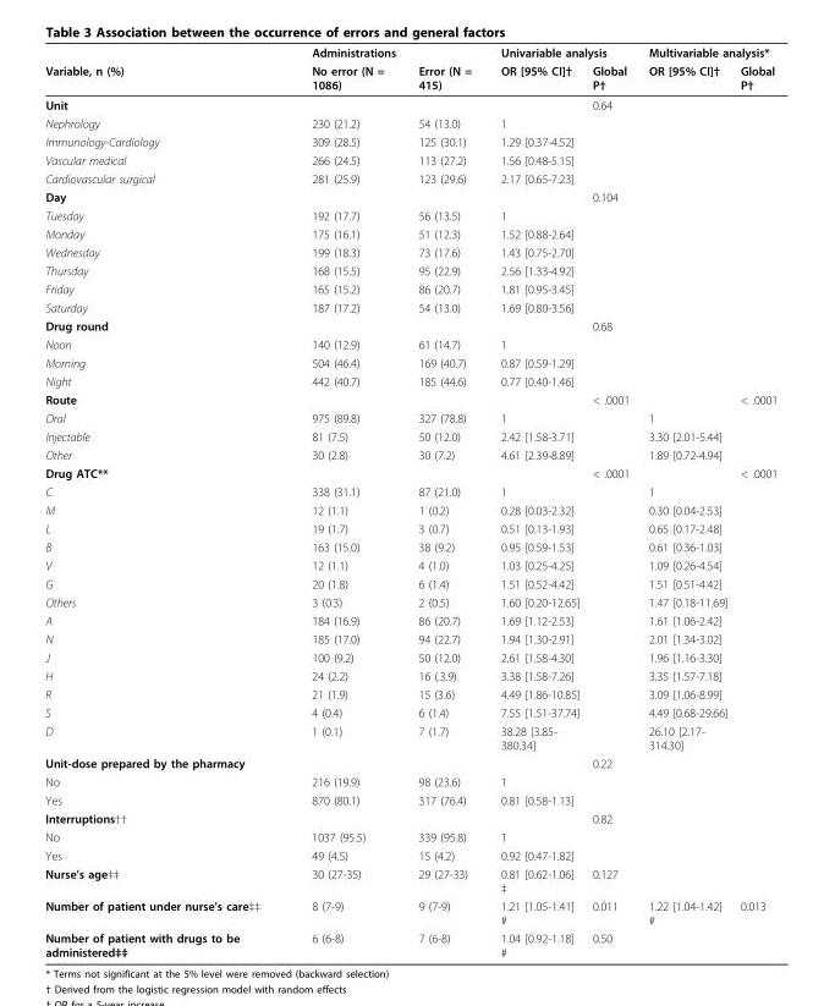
<table><thead><tr><td rowspan="2">Variable, n (%)</td><td colspan="2">Administrations</td><td colspan="2">Univariable analysis</td><td colspan="2">Multivariable analysis*</td></tr><tr><td>No error (N = 1086)</td><td>Error (N = 415)</td><td>OR [95% CI]†</td><td>Global P†</td><td>OR [95% CI]†</td><td>Global P†</td></tr></thead><tbody><tr><td>Unit</td><td></td><td></td><td></td><td>0.64</td><td></td><td></td></tr><tr><td>Nephrology</td><td>230 (21.2)</td><td>54 (13.0)</td><td>1</td><td></td><td></td><td></td></tr><tr><td>Immunology-Cardiology</td><td>309 (28.5)</td><td>125 (30.1)</td><td>1.29 [0.37-4.52]</td><td></td><td></td><td></td></tr><tr><td>Vascular medical</td><td>266 (24.5)</td><td>113 (27.2)</td><td>1.56 [0.48-5.15]</td><td></td><td></td><td></td></tr><tr><td>Cardiovascular surgical</td><td>281 (25.9)</td><td>123 (29.6)</td><td>2.17 [0.65-7.23]</td><td></td><td></td><td></td></tr><tr><td>Day</td><td></td><td></td><td></td><td>0.104</td><td></td><td></td></tr><tr><td>Tuesday</td><td>192 (17.7)</td><td>56 (13.5)</td><td>1</td><td></td><td></td><td></td></tr><tr><td>Monday</td><td>175 (16.1)</td><td>51 (12.3)</td><td>1.52 [0.88-2.64]</td><td></td><td></td><td></td></tr><tr><td>Wednesday</td><td>199 (18.3)</td><td>73 (17.6)</td><td>1.43 [0.75-2.70]</td><td></td><td></td><td></td></tr><tr><td>Thursday</td><td>168 (15.5)</td><td>95 (22.9)</td><td>2.56 [1.33-4.92]</td><td></td><td></td><td></td></tr><tr><td>Friday</td><td>165 (15.2)</td><td>86 (20.7)</td><td>1.81 [0.95-3.45]</td><td></td><td></td><td></td></tr><tr><td>Saturday</td><td>187 (17.2)</td><td>54 (13.0)</td><td>1.69 [0.80-3.56]</td><td></td><td></td><td></td></tr><tr><td>Drug round</td><td></td><td></td><td></td><td>0.68</td><td></td><td></td></tr><tr><td>Noon</td><td>140 (12.9)</td><td>61 (14.7)</td><td>1</td><td></td><td></td><td></td></tr><tr><td>Morning</td><td>504 (46.4)</td><td>169 (40.7)</td><td>0.87 [0.59-1.29]</td><td></td><td></td><td></td></tr><tr><td>Night</td><td>442 (40.7)</td><td>185 (44.6)</td><td>0.77 [0.40-1.46]</td><td></td><td></td><td></td></tr><tr><td>Route</td><td></td><td></td><td></td><td>&lt; .0001</td><td></td><td>&lt; .0001</td></tr><tr><td>Oral</td><td>975 (89.8)</td><td>327 (78.8)</td><td>1</td><td></td><td>1</td><td></td></tr><tr><td>Injectable</td><td>81 (7.5)</td><td>50 (12.0)</td><td>2.42 [1.58-3.71]</td><td></td><td>3.30 [2.01-5.44]</td><td></td></tr><tr><td>Other</td><td>30 (2.8)</td><td>30 (7.2)</td><td>4.61 [2.39-8.89]</td><td></td><td>1.89 [0.72-4.94]</td><td></td></tr><tr><td>Drug ATC**</td><td></td><td></td><td></td><td>&lt; .0001</td><td></td><td>&lt; .0001</td></tr><tr><td>C</td><td>338 (31.1)</td><td>87 (21.0)</td><td>1</td><td></td><td>1</td><td></td></tr><tr><td>M</td><td>12 (1.1)</td><td>1 (0.2)</td><td>0.28 [0.03-2.32]</td><td></td><td>0.30 [0.04-2.53]</td><td></td></tr><tr><td>L</td><td>19 (1.7)</td><td>3 (0.7)</td><td>0.51 [0.13-1.93]</td><td></td><td>0.65 [0.17-2.48]</td><td></td></tr><tr><td>B</td><td>163 (15.0)</td><td>38 (9.2)</td><td>0.95 [0.59-1.53]</td><td></td><td>0.61 [0.36-1.03]</td><td></td></tr><tr><td>V</td><td>12 (1.1)</td><td>4 (1.0)</td><td>1.03 [0.25-4.25]</td><td></td><td>1.09 [0.26-4.54]</td><td></td></tr><tr><td>G</td><td>20 (1.8)</td><td>6 (1.4)</td><td>1.51 [0.52-4.42]</td><td></td><td>1.51 [0.51-4.42]</td><td></td></tr><tr><td>Others</td><td>3 (0.3)</td><td>2 (0.5)</td><td>1.60 [0.20-12.65]</td><td></td><td>1.47 [0.18-11.69]</td><td></td></tr><tr><td>A</td><td>184 (16.9)</td><td>86 (20.7)</td><td>1.69 [1.12-2.53]</td><td></td><td>1.61 [1.06-2.42]</td><td></td></tr><tr><td>N</td><td>185 (17.0)</td><td>94 (22.7)</td><td>1.94 [1.30-2.91]</td><td></td><td>2.01 [1.34-3.02]</td><td></td></tr><tr><td>J</td><td>100 (9.2)</td><td>50 (12.0)</td><td>2.61 [1.58-4.30]</td><td></td><td>1.96 [1.16-3.30]</td><td></td></tr><tr><td>H</td><td>24 (2.2)</td><td>16 (.3.9)</td><td>3.38 [1.58-7.26]</td><td></td><td>3.35 [1.57-7.18]</td><td></td></tr><tr><td>R</td><td>21 (1.9)</td><td>15 (3.6)</td><td>4.49 [1.86-10.85]</td><td></td><td>3.09 [1.06-8.99]</td><td></td></tr><tr><td>S</td><td>4 (0.4)</td><td>6 (1.4)</td><td>7.55 [1.51-37.74]</td><td></td><td>4.49 [0.68-29.66]</td><td></td></tr><tr><td>D</td><td>1 (0.1)</td><td>7 (1.7)</td><td>38.28 [3.85- 380.34]</td><td></td><td>26.10 [2.17- 314.30]</td><td></td></tr><tr><td>Unit-dose prepared by the pharmacy</td><td></td><td></td><td></td><td>0.22</td><td></td><td></td></tr><tr><td>No</td><td>216 (19.9)</td><td>98 (23.6)</td><td>1</td><td></td><td></td><td></td></tr><tr><td>Yes</td><td>870 (80.1)</td><td>317 (76.4)</td><td>0.81 [0.58-1.13]</td><td></td><td></td><td></td></tr><tr><td>Interruptions††</td><td></td><td></td><td></td><td>0.82</td><td></td><td></td></tr><tr><td>No</td><td>1037 (95.5)</td><td>339 (95.8)</td><td>1</td><td></td><td></td><td></td></tr><tr><td>Yes</td><td>49 (4.5)</td><td>15 (4.2)</td><td>0.92 [0.47-1.82]</td><td></td><td></td><td></td></tr><tr><td>Nurse’s age‡‡</td><td>30 (27-35)</td><td>29 (27-33)</td><td>0.81 [0.62-1.06] ‡</td><td>0.127</td><td></td><td></td></tr><tr><td>Number of patient under nurse’s care‡‡</td><td>8 (7-9)</td><td>9 (7-9)</td><td>1.21 [1.05-1.41] #</td><td>0.011</td><td>1.22 [1.04-1.42] #</td><td>0.013</td></tr><tr><td>Number of patient with drugs to be administered‡‡</td><td>6 (6-8)</td><td>7 (6-8)</td><td>1.04 [0.92-1.18] #</td><td>0.50</td><td></td><td></td></tr></tbody></table>